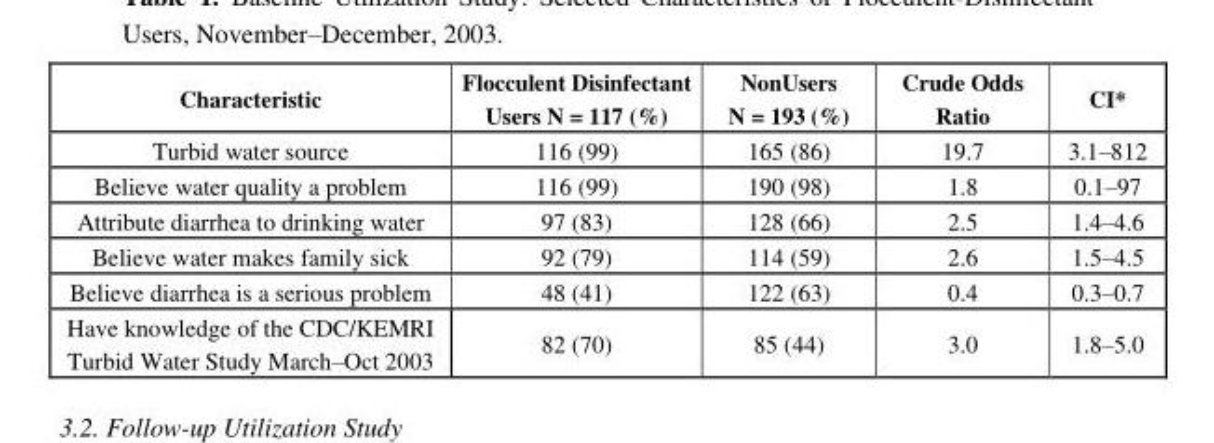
<table><thead><tr><td>Characteristic</td><td>Flocculent Disinfectant Users N = 117 (%)</td><td>NonUsers N = 193 (%)</td><td>Crude Odds Ratio</td><td>CI*</td></tr></thead><tbody><tr><td>Turbid water source</td><td>116 (99)</td><td>165 (86)</td><td>19.7</td><td>3.1–812</td></tr><tr><td>Believe water quality a problem</td><td>116 (99)</td><td>190 (98)</td><td>1.8</td><td>0.1–97</td></tr><tr><td>Attribute diarrhea to drinking water</td><td>97 (83)</td><td>128 (66)</td><td>2.5</td><td>1.4–4.6</td></tr><tr><td>Believe water makes family sick</td><td>92 (79)</td><td>114 (59)</td><td>2.6</td><td>1.5–4.5</td></tr><tr><td>Believe diarrhea is a serious problem</td><td>48 (41)</td><td>122 (63)</td><td>0.4</td><td>0.3–0.7</td></tr><tr><td>Have knowledge of the CDC/KEMRI Turbid Water Study March–Oct 2003</td><td>82 (70)</td><td>85 (44)</td><td>3.0</td><td>1.8–5.0</td></tr></tbody></table>